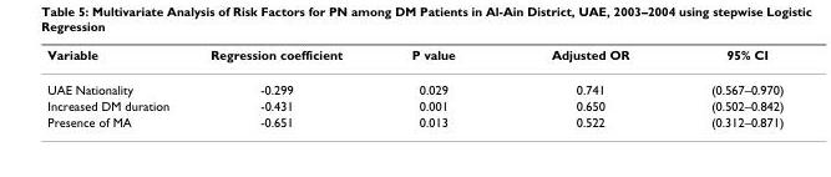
<table><thead><tr><td>Variable</td><td>Regression coefficient</td><td>P value</td><td>Adjusted OR</td><td>95% CI</td></tr></thead><tbody><tr><td>UAE Nationality</td><td>-0.299</td><td>0.029</td><td>0.741</td><td>(0.567–0.970)</td></tr><tr><td>Increased DM duration</td><td>-0.431</td><td>0.001</td><td>0.650</td><td>(0.502–0.842)</td></tr><tr><td>Presence of MA</td><td>-0.651</td><td>0.013</td><td>0.522</td><td>(0.312–0.871)</td></tr></tbody></table>